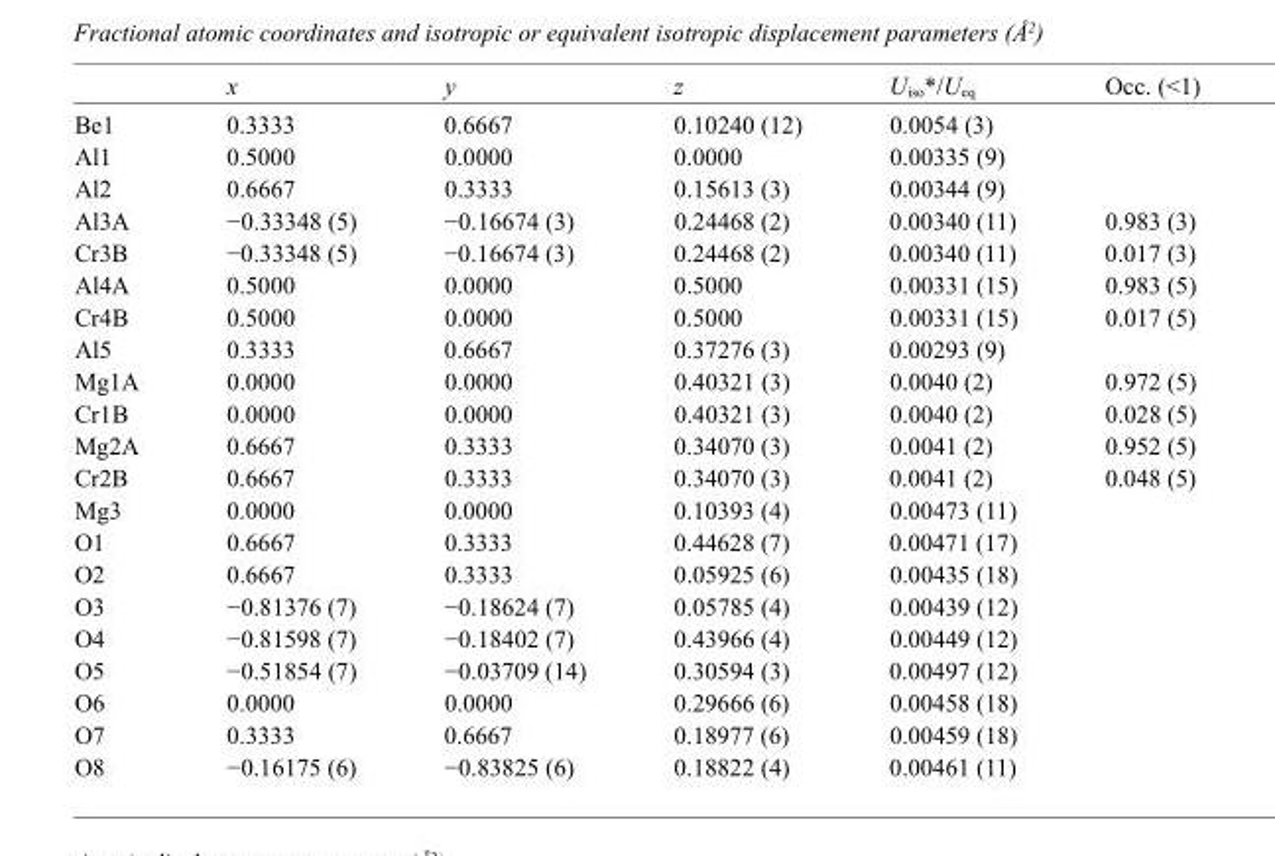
<table><thead><tr><td></td><td>x</td><td>y</td><td>z</td><td>U<sub>iso</sub>*/U<sub>eq</sub></td><td>Occ. (&lt;1)</td></tr></thead><tbody><tr><td>Be1</td><td>0.3333</td><td>0.6667</td><td>0.10240 (12)</td><td>0.0054 (3)</td><td></td></tr><tr><td>Al1</td><td>0.5000</td><td>0.0000</td><td>0.0000</td><td>0.00335 (9)</td><td></td></tr><tr><td>Al2</td><td>0.6667</td><td>0.3333</td><td>0.15613 (3)</td><td>0.00344 (9)</td><td></td></tr><tr><td>Al3A</td><td>−0.33348 (5)</td><td>−0.16674 (3)</td><td>0.24468 (2)</td><td>0.00340 (11)</td><td>0.983 (3)</td></tr><tr><td>Cr3B</td><td>−0.33348 (5)</td><td>−0.16674 (3)</td><td>0.24468 (2)</td><td>0.00340 (11)</td><td>0.017 (3)</td></tr><tr><td>Al4A</td><td>0.5000</td><td>0.0000</td><td>0.5000</td><td>0.00331 (15)</td><td>0.983 (5)</td></tr><tr><td>Cr4B</td><td>0.5000</td><td>0.0000</td><td>0.5000</td><td>0.00331 (15)</td><td>0.017 (5)</td></tr><tr><td>Al5</td><td>0.3333</td><td>0.6667</td><td>0.37276 (3)</td><td>0.00293 (9)</td><td></td></tr><tr><td>Mg1A</td><td>0.0000</td><td>0.0000</td><td>0.40321 (3)</td><td>0.0040 (2)</td><td>0.972 (5)</td></tr><tr><td>Cr1B</td><td>0.0000</td><td>0.0000</td><td>0.40321 (3)</td><td>0.0040 (2)</td><td>0.028 (5)</td></tr><tr><td>Mg2A</td><td>0.6667</td><td>0.3333</td><td>0.34070 (3)</td><td>0.0041 (2)</td><td>0.952 (5)</td></tr><tr><td>Cr2B</td><td>0.6667</td><td>0.3333</td><td>0.34070 (3)</td><td>0.0041 (2)</td><td>0.048 (5)</td></tr><tr><td>Mg3</td><td>0.0000</td><td>0.0000</td><td>0.10393 (4)</td><td>0.00473 (11)</td><td></td></tr><tr><td>O1</td><td>0.6667</td><td>0.3333</td><td>0.44628 (7)</td><td>0.00471 (17)</td><td></td></tr><tr><td>O2</td><td>0.6667</td><td>0.3333</td><td>0.05925 (6)</td><td>0.00435 (18)</td><td></td></tr><tr><td>O3</td><td>−0.81376 (7)</td><td>−0.18624 (7)</td><td>0.05785 (4)</td><td>0.00439 (12)</td><td></td></tr><tr><td>O4</td><td>−0.81598 (7)</td><td>−0.18402 (7)</td><td>0.43966 (4)</td><td>0.00449 (12)</td><td></td></tr><tr><td>O5</td><td>−0.51854 (7)</td><td>−0.03709 (14)</td><td>0.30594 (3)</td><td>0.00497 (12)</td><td></td></tr><tr><td>O6</td><td>0.0000</td><td>0.0000</td><td>0.29666 (6)</td><td>0.00458 (18)</td><td></td></tr><tr><td>O7</td><td>0.3333</td><td>0.6667</td><td>0.18977 (6)</td><td>0.00459 (18)</td><td></td></tr><tr><td>O8</td><td>−0.16175 (6)</td><td>−0.83825 (6)</td><td>0.18822 (4)</td><td>0.00461 (11)</td><td></td></tr></tbody></table>